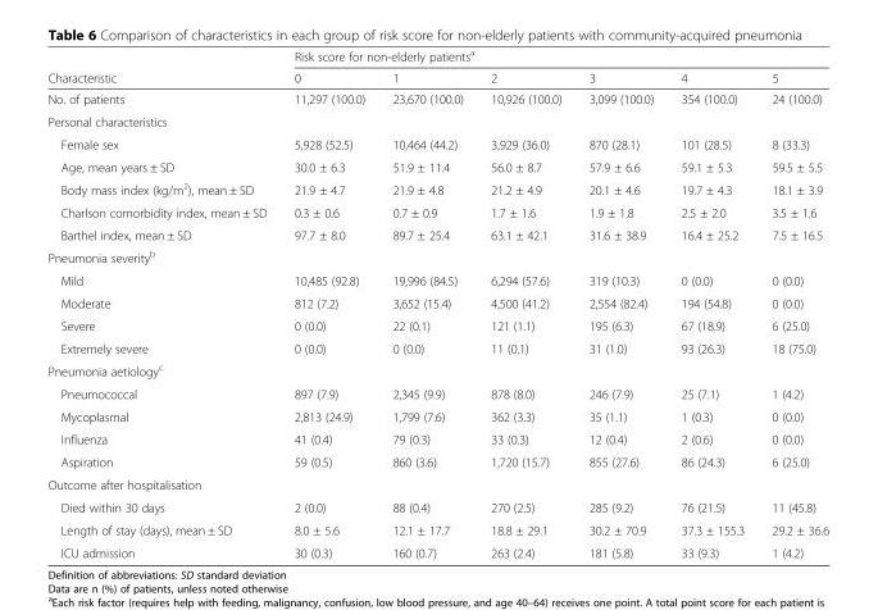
<table><thead><tr><td rowspan="2">Characteristic</td><td colspan="6">Risk score for non-elderly patients<sup>a</sup></td></tr><tr><td>0</td><td>1</td><td>2</td><td>3</td><td>4</td><td>5</td></tr></thead><tbody><tr><td>No. of patients</td><td>11,297 (100.0)</td><td>23,670 (100.0)</td><td>10,926 (100.0)</td><td>3,099 (100.0)</td><td>354 (100.0)</td><td>24 (100.0)</td></tr><tr><td colspan="7">Personal characteristics</td></tr><tr><td>Female sex</td><td>5,928 (52.5)</td><td>10,464 (44.2)</td><td>3,929 (36.0)</td><td>870 (28.1)</td><td>101 (28.5)</td><td>8 (33.3)</td></tr><tr><td>Age, mean years ± SD</td><td>30.0 ± 6.3</td><td>51.9 ± 11.4</td><td>56.0 ± 8.7</td><td>57.9 ± 6.6</td><td>59.1 ± 5.3</td><td>59.5 ± 5.5</td></tr><tr><td>Body mass index (kg/m<sup>2</sup>), mean ± SD</td><td>21.9 ± 4.7</td><td>21.9 ± 4.8</td><td>21.2 ± 4.9</td><td>20.1 ± 4.6</td><td>19.7 ± 4.3</td><td>18.1 ± 3.9</td></tr><tr><td>Charlson comorbidity index, mean ± SD</td><td>0.3 ± 0.6</td><td>0.7 ± 0.9</td><td>1.7 ± 1.6</td><td>1.9 ± 1.8</td><td>2.5 ± 2.0</td><td>3.5 ± 1.6</td></tr><tr><td>Barthel index, mean ± SD</td><td>97.7 ± 8.0</td><td>89.7 ± 25.4</td><td>63.1 ± 42.1</td><td>31.6 ± 38.9</td><td>16.4 ± 25.2</td><td>7.5 ± 16.5</td></tr><tr><td colspan="7">Pneumonia severity<sup>b</sup></td></tr><tr><td>Mild</td><td>10,485 (92.8)</td><td>19,996 (84.5)</td><td>6,294 (57.6)</td><td>319 (10.3)</td><td>0 (0.0)</td><td>0 (0.0)</td></tr><tr><td>Moderate</td><td>812 (7.2)</td><td>3,652 (15.4)</td><td>4,500 (41.2)</td><td>2,554 (82.4)</td><td>194 (54.8)</td><td>0 (0.0)</td></tr><tr><td>Severe</td><td>0 (0.0)</td><td>22 (0.1)</td><td>121 (1.1)</td><td>195 (6.3)</td><td>67 (18.9)</td><td>6 (25.0)</td></tr><tr><td>Extremely severe</td><td>0 (0.0)</td><td>0 (0.0)</td><td>11 (0.1)</td><td>31 (1.0)</td><td>93 (26.3)</td><td>18 (75.0)</td></tr><tr><td colspan="7">Pneumonia aetiology<sup>c</sup></td></tr><tr><td>Pneumococcal</td><td>897 (7.9)</td><td>2,345 (9.9)</td><td>878 (8.0)</td><td>246 (7.9)</td><td>25 (7.1)</td><td>1 (4.2)</td></tr><tr><td>Mycoplasmal</td><td>2,813 (24.9)</td><td>1,799 (7.6)</td><td>362 (3.3)</td><td>35 (1.1)</td><td>1 (0.3)</td><td>0 (0.0)</td></tr><tr><td>Influenza</td><td>41 (0.4)</td><td>79 (0.3)</td><td>33 (0.3)</td><td>12 (0.4)</td><td>2 (0.6)</td><td>0 (0.0)</td></tr><tr><td>Aspiration</td><td>59 (0.5)</td><td>860 (3.6)</td><td>1,720 (15.7)</td><td>855 (27.6)</td><td>86 (24.3)</td><td>6 (25.0)</td></tr><tr><td colspan="7">Outcome after hospitalisation</td></tr><tr><td>Died within 30 days</td><td>2 (0.0)</td><td>88 (0.4)</td><td>270 (2.5)</td><td>285 (9.2)</td><td>76 (21.5)</td><td>11 (45.8)</td></tr><tr><td>Length of stay (days), mean ± SD</td><td>8.0 ± 5.6</td><td>12.1 ± 17.7</td><td>18.8 ± 29.1</td><td>30.2 ± 70.9</td><td>37.3 ± 155.3</td><td>29.2 ± 36.6</td></tr><tr><td>ICU admission</td><td>30 (0.3)</td><td>160 (0.7)</td><td>263 (2.4)</td><td>181 (5.8)</td><td>33 (9.3)</td><td>1 (4.2)</td></tr></tbody></table>